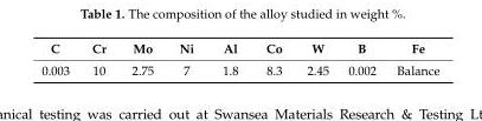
<table><thead><tr><td>C</td><td>Cr</td><td>Mo</td><td>Ni</td><td>Al</td><td>Co</td><td>W</td><td>B</td><td>Fe</td></tr></thead><tbody><tr><td>0.003</td><td>10</td><td>2.75</td><td>7</td><td>1.8</td><td>8.3</td><td>2.45</td><td>0.002</td><td>Balance</td></tr></tbody></table>